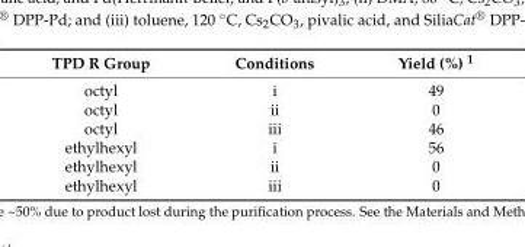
<table><thead><tr><td>TPD R Group</td><td>Conditions</td><td>Yield (%) <sup>1</sup></td></tr></thead><tbody><tr><td>octyl</td><td>i</td><td>49</td></tr><tr><td>octyl</td><td>ii</td><td>0</td></tr><tr><td>octyl</td><td>iii</td><td>46</td></tr><tr><td>ethylhexyl</td><td>i</td><td>56</td></tr><tr><td>ethylhexyl</td><td>ii</td><td>0</td></tr><tr><td>ethylhexyl</td><td>iii</td><td>0</td></tr></tbody></table>